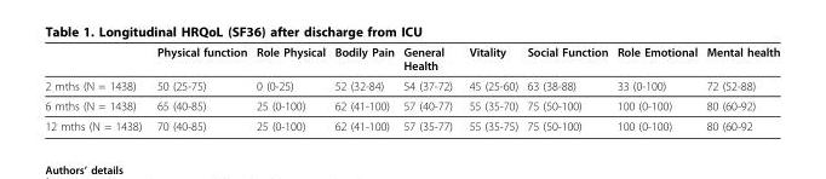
<table><thead><tr><td></td><td>Physical function</td><td>Role Physical</td><td>Bodily Pain</td><td>General Health</td><td>Vitality</td><td>Social Function</td><td>Role Emotional</td><td>Mental health</td></tr></thead><tbody><tr><td>2 mths (N = 1438)</td><td>50 (25-75)</td><td>0 (0-25)</td><td>52 (32-84)</td><td>54 (37-72)</td><td>45 (25-60)</td><td>63 (38-88)</td><td>33 (0-100)</td><td>72 (52-88)</td></tr><tr><td>6 mths (N = 1438)</td><td>65 (40-85)</td><td>25 (0-100)</td><td>62 (41-100)</td><td>57 (40-77)</td><td>55 (35-70)</td><td>75 (50-100)</td><td>100 (0-100)</td><td>80 (60-92)</td></tr><tr><td>12 mths (N = 1438)</td><td>70 (40-85)</td><td>25 (0-100)</td><td>62 (41-100)</td><td>57 (35-77)</td><td>55 (35-75)</td><td>75 (50-100)</td><td>100 (0-100)</td><td>80 (60-92</td></tr></tbody></table>